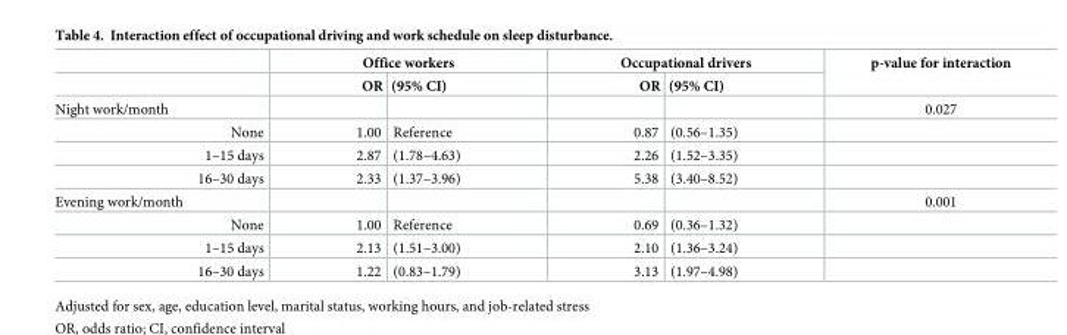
<table><thead><tr><td rowspan="2"></td><td colspan="2">Office workers</td><td colspan="2">Occupational drivers</td><td rowspan="2">p-value for interaction</td></tr><tr><td>OR</td><td>(95% CI)</td><td>OR</td><td>(95% CI)</td></tr></thead><tbody><tr><td>Night work/month</td><td></td><td></td><td></td><td></td><td>0.027</td></tr><tr><td>None</td><td>1.00</td><td>Reference</td><td>0.87</td><td>(0.56–1.35)</td><td></td></tr><tr><td>1–15 days</td><td>2.87</td><td>(1.78–4.63)</td><td>2.26</td><td>(1.52–3.35)</td><td></td></tr><tr><td>16–30 days</td><td>2.33</td><td>(1.37–3.96)</td><td>5.38</td><td>(3.40–8.52)</td><td></td></tr><tr><td>Evening work/month</td><td></td><td></td><td></td><td></td><td>0.001</td></tr><tr><td>None</td><td>1.00</td><td>Reference</td><td>0.69</td><td>(0.36–1.32)</td><td></td></tr><tr><td>1–15 days</td><td>2.13</td><td>(1.51–3.00)</td><td>2.10</td><td>(1.36–3.24)</td><td></td></tr><tr><td>16–30 days</td><td>1.22</td><td>(0.83–1.79)</td><td>3.13</td><td>(1.97–4.98)</td><td></td></tr></tbody></table>